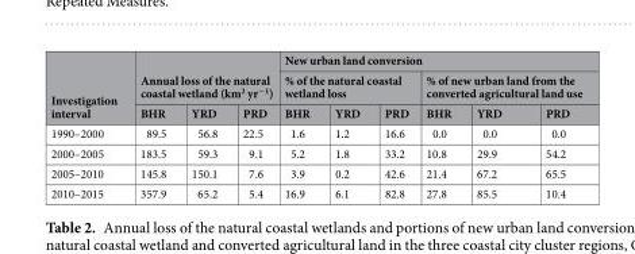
<table><thead><tr><td rowspan="3">Investigation interval</td><td rowspan="2" colspan="3">Annual loss of the natural coastal wetland (km<sup>2</sup> yr<sup>−1</sup>)</td><td colspan="6">New urban land conversion</td></tr><tr><td colspan="3">% of the natural coastal wetland loss</td><td colspan="3">% of new urban land from the converted agricultural land use</td></tr><tr><td>BHR</td><td>YRD</td><td>PRD</td><td>BHR</td><td>YRD</td><td>PRD</td><td>BHR</td><td>YRD</td><td>PRD</td></tr></thead><tbody><tr><td>1990–2000</td><td>89.5</td><td>56.8</td><td>22.5</td><td>1.6</td><td>1.2</td><td>16.6</td><td>0.0</td><td>0.0</td><td>0.0</td></tr><tr><td>2000–2005</td><td>183.5</td><td>59.3</td><td>9.1</td><td>5.2</td><td>1.8</td><td>33.2</td><td>10.8</td><td>29.9</td><td>54.2</td></tr><tr><td>2005–2010</td><td>145.8</td><td>150.1</td><td>7.6</td><td>3.9</td><td>0.2</td><td>42.6</td><td>21.4</td><td>67.2</td><td>65.5</td></tr><tr><td>2010–2015</td><td>357.9</td><td>65.2</td><td>5.4</td><td>16.9</td><td>6.1</td><td>82.8</td><td>27.8</td><td>85.5</td><td>10.4</td></tr></tbody></table>